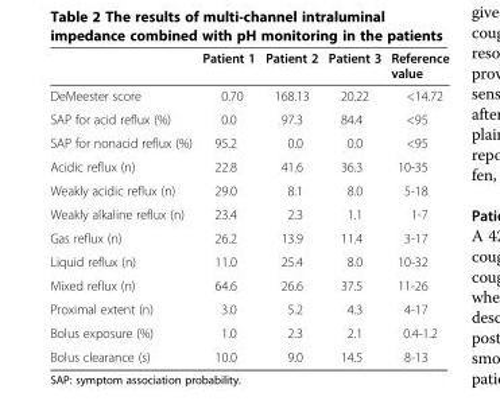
<table><thead><tr><td></td><td>Patient 1</td><td>Patient 2</td><td>Patient 3</td><td>Reference value</td></tr></thead><tbody><tr><td>DeMeester score</td><td>0.70</td><td>168.13</td><td>20.22</td><td>&lt;14.72</td></tr><tr><td>SAP for acid reflux (%)</td><td>0.0</td><td>97.3</td><td>84.4</td><td>&lt;95</td></tr><tr><td>SAP for nonacid reflux (%)</td><td>95.2</td><td>0.0</td><td>0.0</td><td>&lt;95</td></tr><tr><td>Acidic reflux (n)</td><td>22.8</td><td>41.6</td><td>36.3</td><td>10-35</td></tr><tr><td>Weakly acidic reflux (n)</td><td>29.0</td><td>8.1</td><td>8.0</td><td>5-18</td></tr><tr><td>Weakly alkaline reflux (n)</td><td>23.4</td><td>2.3</td><td>1.1</td><td>1-7</td></tr><tr><td>Gas reflux (n)</td><td>26.2</td><td>13.9</td><td>11.4</td><td>3-17</td></tr><tr><td>Liquid reflux (n)</td><td>11.0</td><td>25.4</td><td>8.0</td><td>10-32</td></tr><tr><td>Mixed reflux (n)</td><td>64.6</td><td>26.6</td><td>37.5</td><td>11-26</td></tr><tr><td>Proximal extent (n)</td><td>3.0</td><td>5.2</td><td>4.3</td><td>4-17</td></tr><tr><td>Bolus exposure (%)</td><td>1.0</td><td>2.3</td><td>2.1</td><td>0.4-1.2</td></tr><tr><td>Bolus clearance (s)</td><td>10.0</td><td>9.0</td><td>14.5</td><td>8-13</td></tr></tbody></table>